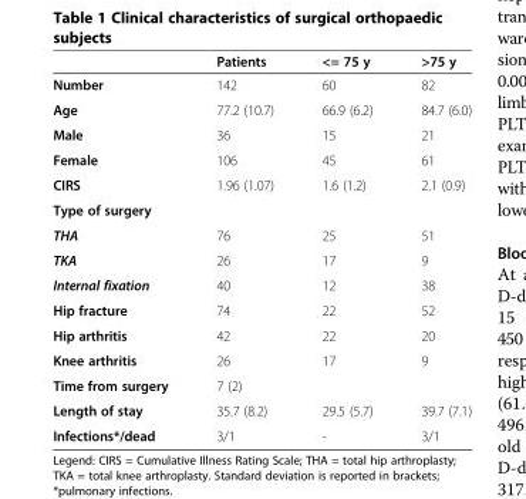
<table><thead><tr><td></td><td>Patients</td><td>&lt;= 75 y</td><td>&gt;75 y</td></tr></thead><tbody><tr><td>Number</td><td>142</td><td>60</td><td>82</td></tr><tr><td>Age</td><td>77.2 (10.7)</td><td>66.9 (6.2)</td><td>84.7 (6.0)</td></tr><tr><td>Male</td><td>36</td><td>15</td><td>21</td></tr><tr><td>Female</td><td>106</td><td>45</td><td>61</td></tr><tr><td>CIRS</td><td>1.96 (1.07)</td><td>1.6 (1.2)</td><td>2.1 (0.9)</td></tr><tr><td colspan="4">Type of surgery</td></tr><tr><td>THA</td><td>76</td><td>25</td><td>51</td></tr><tr><td>TKA</td><td>26</td><td>17</td><td>9</td></tr><tr><td>Internal fixation</td><td>40</td><td>12</td><td>38</td></tr><tr><td>Hip fracture</td><td>74</td><td>22</td><td>52</td></tr><tr><td>Hip arthritis</td><td>42</td><td>22</td><td>20</td></tr><tr><td>Knee arthritis</td><td>26</td><td>17</td><td>9</td></tr><tr><td>Time from surgery</td><td>7 (2)</td><td></td><td></td></tr><tr><td>Length of stay</td><td>35.7 (8.2)</td><td>29.5 (5.7)</td><td>39.7 (7.1)</td></tr><tr><td>Infections*/dead</td><td>3/1</td><td>-</td><td>3/1</td></tr></tbody></table>